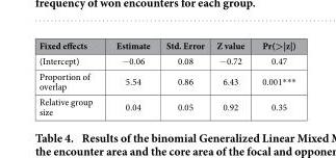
<table><thead><tr><td>Fixed effects</td><td>Estimate</td><td>Std. Error</td><td>Z value</td><td>Pr(&gt;|z|)</td></tr></thead><tbody><tr><td>(Intercept)</td><td>− 0.06</td><td>0.08</td><td>− 0.72</td><td>0.47</td></tr><tr><td>Proportion of overlap</td><td>5.54</td><td>0.86</td><td>6.43</td><td>0.001* * *</td></tr><tr><td>Relative group size</td><td>0.04</td><td>0.05</td><td>0.92</td><td>0.35</td></tr></tbody></table>